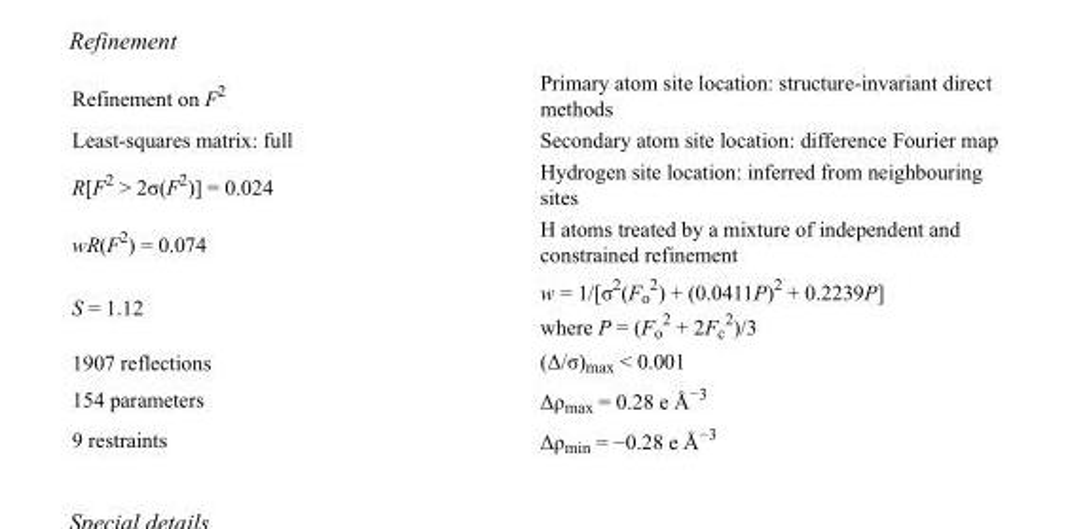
<table><tbody><tr><td>Refinement on F<sup>2</sup></td><td>Primary atom site location: structure-invariant direct methods</td></tr><tr><td>Least-squares matrix: full</td><td>Secondary atom site location: difference Fourier map</td></tr><tr><td>R[F<sup>2</sup> &gt; 2σ(F<sup>2</sup>)] = 0.024</td><td>Hydrogen site location: inferred from neighbouring sites</td></tr><tr><td>wR(F<sup>2</sup>) = 0.074</td><td>H atoms treated by a mixture of independent and constrained refinement</td></tr><tr><td>S = 1.12</td><td>w = 1/[σ<sup>2</sup>(F<sub>o</sub> <sup>2</sup>) + (0.0411P)<sup>2</sup> + 0.2239P] where P = (F<sub>o</sub> <sup>2</sup> + 2F<sub>c</sub> <sup>2</sup>)/3</td></tr><tr><td>1907 reflections</td><td>(Δ/σ)<sub>max</sub> &lt; 0.001</td></tr><tr><td>154 parameters</td><td>Δρ<sub>max</sub> = 0.28 e Å<sup>−3</sup></td></tr><tr><td>9 restraints</td><td>Δρ<sub>min</sub> = −0.28 e Å<sup>−3</sup></td></tr></tbody></table>